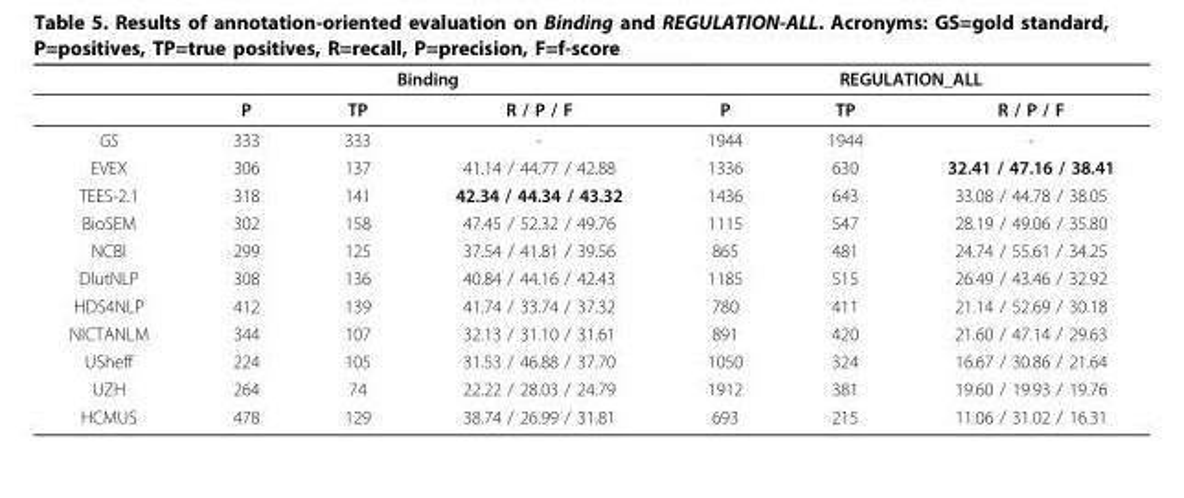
<table><thead><tr><td rowspan="2"></td><td colspan="3">Binding</td><td colspan="3">REGULATION_ALL</td></tr><tr><td>P</td><td>TP</td><td>R / P / F</td><td>P</td><td>TP</td><td>R / P / F</td></tr></thead><tbody><tr><td>GS</td><td>333</td><td>333</td><td>-</td><td>1944</td><td>1944</td><td>-</td></tr><tr><td>EVEX</td><td>306</td><td>137</td><td>41.14 / 44.77 / 42.88</td><td>1336</td><td>630</td><td>32.41 / 47.16 / 38.41</td></tr><tr><td>TEES-2.1</td><td>318</td><td>141</td><td>42.34 / 44.34 / 43.32</td><td>1436</td><td>643</td><td>33.08 / 44.78 / 38.05</td></tr><tr><td>BioSEM</td><td>302</td><td>158</td><td>47.45 / 52.32 / 49.76</td><td>1115</td><td>547</td><td>28.19 / 49.06 / 35.80</td></tr><tr><td>NCBI</td><td>299</td><td>125</td><td>37.54 / 41.81 / 39.56</td><td>865</td><td>481</td><td>24.74 / 55.61 / 34.25</td></tr><tr><td>DlutNLP</td><td>308</td><td>136</td><td>40.84 / 44.16 / 42.43</td><td>1185</td><td>515</td><td>26.49 / 43.46 / 32.92</td></tr><tr><td>HDS4NLP</td><td>412</td><td>139</td><td>41.74 / 33.74 / 37.32</td><td>780</td><td>411</td><td>21.14 / 52.69 / 30.18</td></tr><tr><td>NICTANLM</td><td>344</td><td>107</td><td>32.13 / 31.10 / 31.61</td><td>891</td><td>420</td><td>21.60 / 47.14 / 29.63</td></tr><tr><td>USheff</td><td>224</td><td>105</td><td>31.53 / 46.88 / 37.70</td><td>1050</td><td>324</td><td>16.67 / 30.86 / 21.64</td></tr><tr><td>UZH</td><td>264</td><td>74</td><td>22.22 / 28.03 / 24.79</td><td>1912</td><td>381</td><td>19.60 / 19.93 / 19.76</td></tr><tr><td>HCMUS</td><td>478</td><td>129</td><td>38.74 / 26.99 / 31.81</td><td>693</td><td>215</td><td>11.06 / 31.02 / 16.31</td></tr></tbody></table>